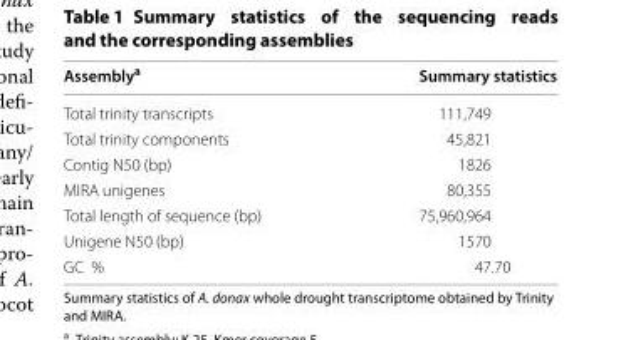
<table><thead><tr><td>Assembly<sup>a</sup></td><td>Summary statistics</td></tr></thead><tbody><tr><td>Total trinity transcripts</td><td>111,749</td></tr><tr><td>Total trinity components</td><td>45,821</td></tr><tr><td>Contig N50 (bp)</td><td>1826</td></tr><tr><td>MIRA unigenes</td><td>80,355</td></tr><tr><td>Total length of sequence (bp)</td><td>75,960,964</td></tr><tr><td>Unigene N50 (bp)</td><td>1570</td></tr><tr><td>GC %</td><td>47.70</td></tr></tbody></table>